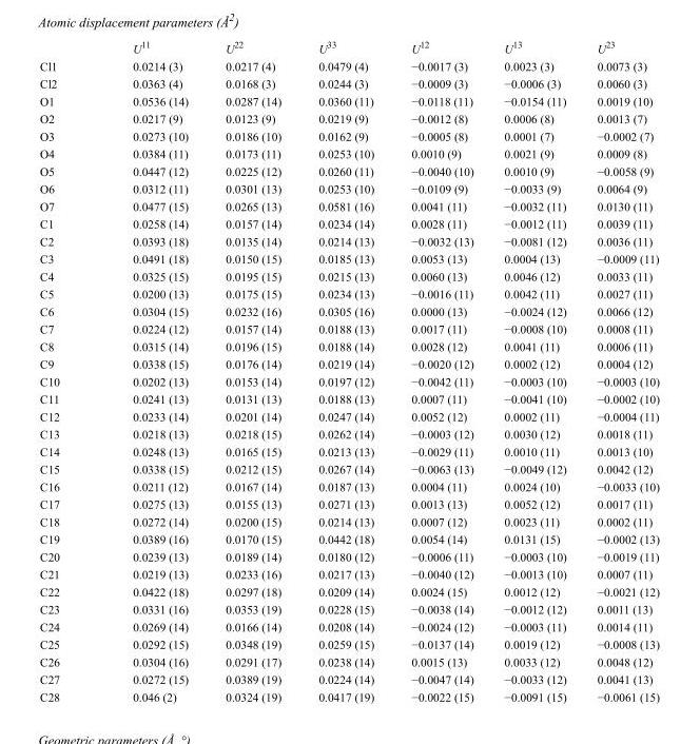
<table><thead><tr><td></td><td>U<sup>11</sup></td><td>U<sup>22</sup></td><td>U<sup>33</sup></td><td>U<sup>12</sup></td><td>U<sup>13</sup></td><td>U<sup>23</sup></td></tr></thead><tbody><tr><td>Cl1</td><td>0.0214 (3)</td><td>0.0217 (4)</td><td>0.0479 (4)</td><td>−0.0017 (3)</td><td>0.0023 (3)</td><td>0.0073 (3)</td></tr><tr><td>Cl2</td><td>0.0363 (4)</td><td>0.0168 (3)</td><td>0.0244 (3)</td><td>−0.0009 (3)</td><td>−0.0006 (3)</td><td>0.0060 (3)</td></tr><tr><td>O1</td><td>0.0536 (14)</td><td>0.0287 (14)</td><td>0.0360 (11)</td><td>−0.0118 (11)</td><td>−0.0154 (11)</td><td>0.0019 (10)</td></tr><tr><td>O2</td><td>0.0217 (9)</td><td>0.0123 (9)</td><td>0.0219 (9)</td><td>−0.0012 (8)</td><td>0.0006 (8)</td><td>0.0013 (7)</td></tr><tr><td>O3</td><td>0.0273 (10)</td><td>0.0186 (10)</td><td>0.0162 (9)</td><td>−0.0005 (8)</td><td>0.0001 (7)</td><td>−0.0002 (7)</td></tr><tr><td>O4</td><td>0.0384 (11)</td><td>0.0173 (11)</td><td>0.0253 (10)</td><td>0.0010 (9)</td><td>0.0021 (9)</td><td>0.0009 (8)</td></tr><tr><td>O5</td><td>0.0447 (12)</td><td>0.0225 (12)</td><td>0.0260 (11)</td><td>−0.0040 (10)</td><td>0.0010 (9)</td><td>−0.0058 (9)</td></tr><tr><td>O6</td><td>0.0312 (11)</td><td>0.0301 (13)</td><td>0.0253 (10)</td><td>−0.0109 (9)</td><td>−0.0033 (9)</td><td>0.0064 (9)</td></tr><tr><td>O7</td><td>0.0477 (15)</td><td>0.0265 (13)</td><td>0.0581 (16)</td><td>0.0041 (11)</td><td>−0.0032 (11)</td><td>0.0130 (11)</td></tr><tr><td>C1</td><td>0.0258 (14)</td><td>0.0157 (14)</td><td>0.0234 (14)</td><td>0.0028 (11)</td><td>−0.0012 (11)</td><td>0.0039 (11)</td></tr><tr><td>C2</td><td>0.0393 (18)</td><td>0.0135 (14)</td><td>0.0214 (13)</td><td>−0.0032 (13)</td><td>−0.0081 (12)</td><td>0.0036 (11)</td></tr><tr><td>C3</td><td>0.0491 (18)</td><td>0.0150 (15)</td><td>0.0185 (13)</td><td>0.0053 (13)</td><td>0.0004 (13)</td><td>−0.0009 (11)</td></tr><tr><td>C4</td><td>0.0325 (15)</td><td>0.0195 (15)</td><td>0.0215 (13)</td><td>0.0060 (13)</td><td>0.0046 (12)</td><td>0.0033 (11)</td></tr><tr><td>C5</td><td>0.0200 (13)</td><td>0.0175 (15)</td><td>0.0234 (13)</td><td>−0.0016 (11)</td><td>0.0042 (11)</td><td>0.0027 (11)</td></tr><tr><td>C6</td><td>0.0304 (15)</td><td>0.0232 (16)</td><td>0.0305 (16)</td><td>0.0000 (13)</td><td>−0.0024 (12)</td><td>0.0066 (12)</td></tr><tr><td>C7</td><td>0.0224 (12)</td><td>0.0157 (14)</td><td>0.0188 (13)</td><td>0.0017 (11)</td><td>−0.0008 (10)</td><td>0.0008 (11)</td></tr><tr><td>C8</td><td>0.0315 (14)</td><td>0.0196 (15)</td><td>0.0188 (14)</td><td>0.0028 (12)</td><td>0.0041 (11)</td><td>0.0006 (11)</td></tr><tr><td>C9</td><td>0.0338 (15)</td><td>0.0176 (14)</td><td>0.0219 (14)</td><td>−0.0020 (12)</td><td>0.0002 (12)</td><td>0.0004 (12)</td></tr><tr><td>C10</td><td>0.0202 (13)</td><td>0.0153 (14)</td><td>0.0197 (12)</td><td>−0.0042 (11)</td><td>−0.0003 (10)</td><td>−0.0003 (10)</td></tr><tr><td>C11</td><td>0.0241 (13)</td><td>0.0131 (13)</td><td>0.0188 (13)</td><td>0.0007 (11)</td><td>−0.0041 (10)</td><td>−0.0002 (10)</td></tr><tr><td>C12</td><td>0.0233 (14)</td><td>0.0201 (14)</td><td>0.0247 (14)</td><td>0.0052 (12)</td><td>0.0002 (11)</td><td>−0.0004 (11)</td></tr><tr><td>C13</td><td>0.0218 (13)</td><td>0.0218 (15)</td><td>0.0262 (14)</td><td>−0.0003 (12)</td><td>0.0030 (12)</td><td>0.0018 (11)</td></tr><tr><td>C14</td><td>0.0248 (13)</td><td>0.0165 (15)</td><td>0.0213 (13)</td><td>−0.0029 (11)</td><td>0.0010 (11)</td><td>0.0013 (10)</td></tr><tr><td>C15</td><td>0.0338 (15)</td><td>0.0212 (15)</td><td>0.0267 (14)</td><td>−0.0063 (13)</td><td>−0.0049 (12)</td><td>0.0042 (12)</td></tr><tr><td>C16</td><td>0.0211 (12)</td><td>0.0167 (14)</td><td>0.0187 (13)</td><td>0.0004 (11)</td><td>0.0024 (10)</td><td>−0.0033 (10)</td></tr><tr><td>C17</td><td>0.0275 (13)</td><td>0.0155 (13)</td><td>0.0271 (13)</td><td>0.0013 (13)</td><td>0.0052 (12)</td><td>0.0017 (11)</td></tr><tr><td>C18</td><td>0.0272 (14)</td><td>0.0200 (15)</td><td>0.0214 (13)</td><td>0.0007 (12)</td><td>0.0023 (11)</td><td>0.0002 (11)</td></tr><tr><td>C19</td><td>0.0389 (16)</td><td>0.0170 (15)</td><td>0.0442 (18)</td><td>0.0054 (14)</td><td>0.0131 (15)</td><td>−0.0002 (13)</td></tr><tr><td>C20</td><td>0.0239 (13)</td><td>0.0189 (14)</td><td>0.0180 (12)</td><td>−0.0006 (11)</td><td>−0.0003 (10)</td><td>−0.0019 (11)</td></tr><tr><td>C21</td><td>0.0219 (13)</td><td>0.0233 (16)</td><td>0.0217 (13)</td><td>−0.0040 (12)</td><td>−0.0013 (10)</td><td>0.0007 (11)</td></tr><tr><td>C22</td><td>0.0422 (18)</td><td>0.0297 (18)</td><td>0.0209 (14)</td><td>0.0024 (15)</td><td>0.0012 (12)</td><td>−0.0021 (12)</td></tr><tr><td>C23</td><td>0.0331 (16)</td><td>0.0353 (19)</td><td>0.0228 (15)</td><td>−0.0038 (14)</td><td>−0.0012 (12)</td><td>0.0011 (13)</td></tr><tr><td>C24</td><td>0.0269 (14)</td><td>0.0166 (14)</td><td>0.0208 (14)</td><td>−0.0024 (12)</td><td>−0.0003 (11)</td><td>0.0014 (11)</td></tr><tr><td>C25</td><td>0.0292 (15)</td><td>0.0348 (19)</td><td>0.0259 (15)</td><td>−0.0137 (14)</td><td>0.0019 (12)</td><td>−0.0008 (13)</td></tr><tr><td>C26</td><td>0.0304 (16)</td><td>0.0291 (17)</td><td>0.0238 (14)</td><td>0.0015 (13)</td><td>0.0033 (12)</td><td>0.0048 (12)</td></tr><tr><td>C27</td><td>0.0272 (15)</td><td>0.0389 (19)</td><td>0.0224 (14)</td><td>−0.0047 (14)</td><td>−0.0033 (12)</td><td>0.0041 (13)</td></tr><tr><td>C28</td><td>0.046 (2)</td><td>0.0324 (19)</td><td>0.0417 (19)</td><td>−0.0022 (15)</td><td>−0.0091 (15)</td><td>−0.0061 (15)</td></tr></tbody></table>